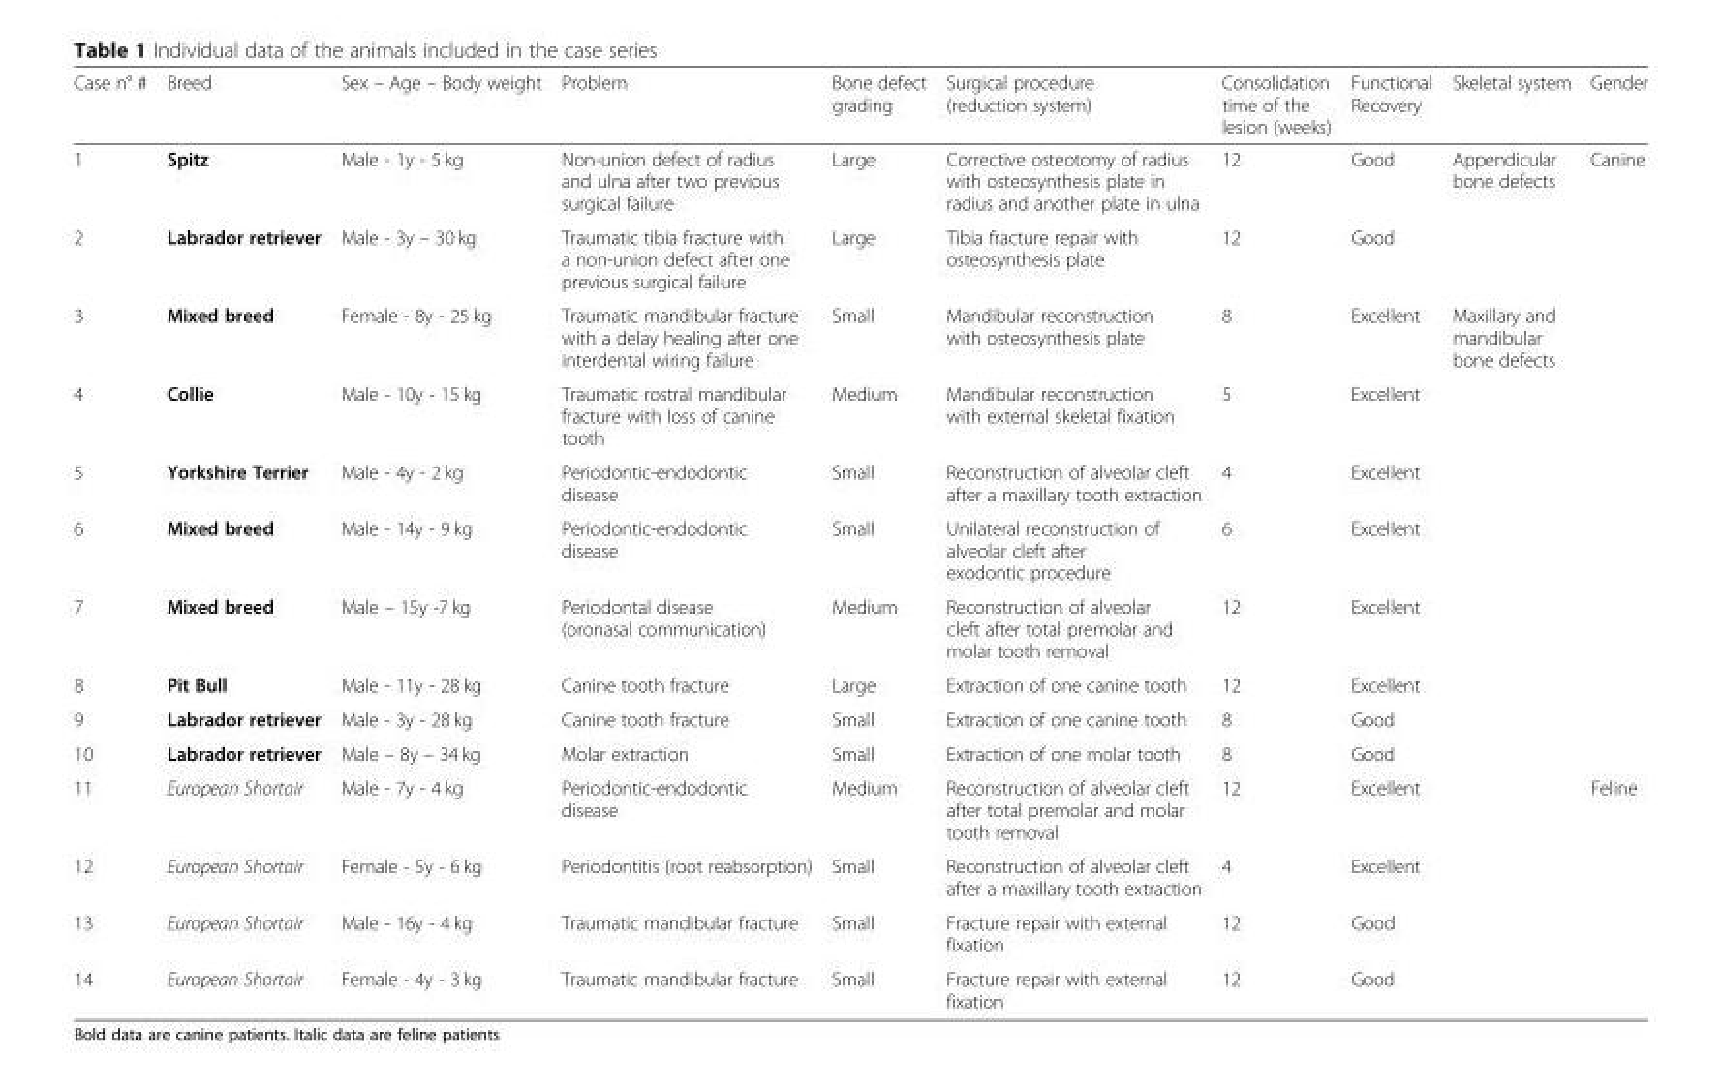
<table><thead><tr><td>Case n° #</td><td>Breed</td><td>Sex – Age – Body weight</td><td>Problem</td><td>Bone defect grading</td><td>Surgical procedure (reduction system)</td><td>Consolidation time of the lesion (weeks)</td><td>Functional Recovery</td><td>Skeletal system</td><td>Gender</td></tr></thead><tbody><tr><td>1</td><td>Spitz</td><td>Male - 1y - 5 kg</td><td>Non-union defect of radius and ulna after two previous surgical failure</td><td>Large</td><td>Corrective osteotomy of radius with osteosynthesis plate in radius and another plate in ulna</td><td>12</td><td>Good</td><td rowspan="2">Appendicular bone defects</td><td rowspan="10">Canine</td></tr><tr><td>2</td><td>Labrador retriever</td><td>Male - 3y – 30 kg</td><td>Traumatic tibia fracture with a non-union defect after one previous surgical failure</td><td>Large</td><td>Tibia fracture repair with osteosynthesis plate</td><td>12</td><td>Good</td></tr><tr><td>3</td><td>Mixed breed</td><td>Female - 8y - 25 kg</td><td>Traumatic mandibular fracture with a delay healing after one interdental wiring failure</td><td>Small</td><td>Mandibular reconstruction with osteosynthesis plate</td><td>8</td><td>Excellent</td><td rowspan="12">Maxillary and mandibular bone defects</td></tr><tr><td>4</td><td>Collie</td><td>Male - 10y - 15 kg</td><td>Traumatic rostral mandibular fracture with loss of canine tooth</td><td>Medium</td><td>Mandibular reconstruction with external skeletal fixation</td><td>5</td><td>Excellent</td></tr><tr><td>5</td><td>Yorkshire Terrier</td><td>Male - 4y - 2 kg</td><td>Periodontic-endodontic disease</td><td>Small</td><td>Reconstruction of alveolar cleft after a maxillary tooth extraction</td><td>4</td><td>Excellent</td></tr><tr><td>6</td><td>Mixed breed</td><td>Male - 14y - 9 kg</td><td>Periodontic-endodontic disease</td><td>Small</td><td>Unilateral reconstruction of alveolar cleft after exodontic procedure</td><td>6</td><td>Excellent</td></tr><tr><td>7</td><td>Mixed breed</td><td>Male – 15y -7 kg</td><td>Periodontal disease (oronasal communication)</td><td>Medium</td><td>Reconstruction of alveolar cleft after total premolar and molar tooth removal</td><td>12</td><td>Excellent</td></tr><tr><td>8</td><td>Pit Bull</td><td>Male - 11y - 28 kg</td><td>Canine tooth fracture</td><td>Large</td><td>Extraction of one canine tooth</td><td>12</td><td>Excellent</td></tr><tr><td>9</td><td>Labrador retriever</td><td>Male - 3y - 28 kg</td><td>Canine tooth fracture</td><td>Small</td><td>Extraction of one canine tooth</td><td>8</td><td>Good</td></tr><tr><td>10</td><td>Labrador retriever</td><td>Male – 8y – 34 kg</td><td>Molar extraction</td><td>Small</td><td>Extraction of one molar tooth</td><td>8</td><td>Good</td></tr><tr><td>11</td><td>European Shortair</td><td>Male - 7y - 4 kg</td><td>Periodontic-endodontic disease</td><td>Medium</td><td>Reconstruction of alveolar cleft after total premolar and molar tooth removal</td><td>12</td><td>Excellent</td><td rowspan="4">Feline</td></tr><tr><td>12</td><td>European Shortair</td><td>Female - 5y - 6 kg</td><td>Periodontitis (root reabsorption)</td><td>Small</td><td>Reconstruction of alveolar cleft after a maxillary tooth extraction</td><td>4</td><td>Excellent</td></tr><tr><td>13</td><td>European Shortair</td><td>Male - 16y - 4 kg</td><td>Traumatic mandibular fracture</td><td>Small</td><td>Fracture repair with external fixation</td><td>12</td><td>Good</td></tr><tr><td>14</td><td>European Shortair</td><td>Female - 4y - 3 kg</td><td>Traumatic mandibular fracture</td><td>Small</td><td>Fracture repair with external fixation</td><td>12</td><td>Good</td></tr></tbody></table>